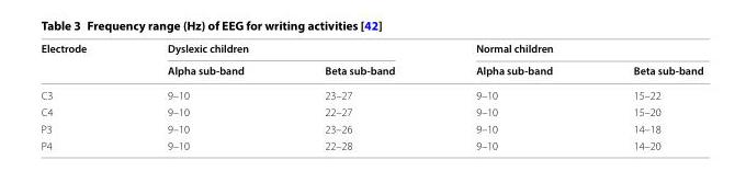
<table><thead><tr><td rowspan="2">Electrode</td><td colspan="2">Dyslexic children</td><td colspan="2">Normal children</td></tr><tr><td>Alpha sub‑band</td><td>Beta sub‑band</td><td>Alpha sub‑band</td><td>Beta sub‑band</td></tr></thead><tbody><tr><td>C3</td><td>9–10</td><td>23–27</td><td>9–10</td><td>15–22</td></tr><tr><td>C4</td><td>9–10</td><td>22–27</td><td>9–10</td><td>15–20</td></tr><tr><td>P3</td><td>9–10</td><td>23–26</td><td>9–10</td><td>14–18</td></tr><tr><td>P4</td><td>9–10</td><td>22–28</td><td>9–10</td><td>14–20</td></tr></tbody></table>